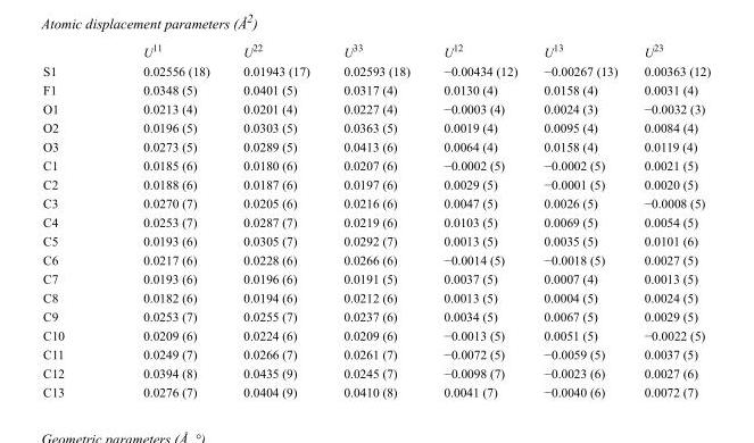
<table><thead><tr><td></td><td>U<sup>11</sup></td><td>U<sup>22</sup></td><td>U<sup>33</sup></td><td>U<sup>12</sup></td><td>U<sup>13</sup></td><td>U<sup>23</sup></td></tr></thead><tbody><tr><td>S1</td><td>0.02556 (18)</td><td>0.01943 (17)</td><td>0.02593 (18)</td><td>−0.00434 (12)</td><td>−0.00267 (13)</td><td>0.00363 (12)</td></tr><tr><td>F1</td><td>0.0348 (5)</td><td>0.0401 (5)</td><td>0.0317 (4)</td><td>0.0130 (4)</td><td>0.0158 (4)</td><td>0.0031 (4)</td></tr><tr><td>O1</td><td>0.0213 (4)</td><td>0.0201 (4)</td><td>0.0227 (4)</td><td>−0.0003 (4)</td><td>0.0024 (3)</td><td>−0.0032 (3)</td></tr><tr><td>O2</td><td>0.0196 (5)</td><td>0.0303 (5)</td><td>0.0363 (5)</td><td>0.0019 (4)</td><td>0.0095 (4)</td><td>0.0084 (4)</td></tr><tr><td>O3</td><td>0.0273 (5)</td><td>0.0289 (5)</td><td>0.0413 (6)</td><td>0.0064 (4)</td><td>0.0158 (4)</td><td>0.0119 (4)</td></tr><tr><td>C1</td><td>0.0185 (6)</td><td>0.0180 (6)</td><td>0.0207 (6)</td><td>−0.0002 (5)</td><td>−0.0002 (5)</td><td>0.0021 (5)</td></tr><tr><td>C2</td><td>0.0188 (6)</td><td>0.0187 (6)</td><td>0.0197 (6)</td><td>0.0029 (5)</td><td>−0.0001 (5)</td><td>0.0020 (5)</td></tr><tr><td>C3</td><td>0.0270 (7)</td><td>0.0205 (6)</td><td>0.0216 (6)</td><td>0.0047 (5)</td><td>0.0026 (5)</td><td>−0.0008 (5)</td></tr><tr><td>C4</td><td>0.0253 (7)</td><td>0.0287 (7)</td><td>0.0219 (6)</td><td>0.0103 (5)</td><td>0.0069 (5)</td><td>0.0054 (5)</td></tr><tr><td>C5</td><td>0.0193 (6)</td><td>0.0305 (7)</td><td>0.0292 (7)</td><td>0.0013 (5)</td><td>0.0035 (5)</td><td>0.0101 (6)</td></tr><tr><td>C6</td><td>0.0217 (6)</td><td>0.0228 (6)</td><td>0.0266 (6)</td><td>−0.0014 (5)</td><td>−0.0018 (5)</td><td>0.0027 (5)</td></tr><tr><td>C7</td><td>0.0193 (6)</td><td>0.0196 (6)</td><td>0.0191 (5)</td><td>0.0037 (5)</td><td>0.0007 (4)</td><td>0.0013 (5)</td></tr><tr><td>C8</td><td>0.0182 (6)</td><td>0.0194 (6)</td><td>0.0212 (6)</td><td>0.0013 (5)</td><td>0.0004 (5)</td><td>0.0024 (5)</td></tr><tr><td>C9</td><td>0.0253 (7)</td><td>0.0255 (7)</td><td>0.0237 (6)</td><td>0.0034 (5)</td><td>0.0067 (5)</td><td>0.0029 (5)</td></tr><tr><td>C10</td><td>0.0209 (6)</td><td>0.0224 (6)</td><td>0.0209 (6)</td><td>−0.0013 (5)</td><td>0.0051 (5)</td><td>−0.0022 (5)</td></tr><tr><td>C11</td><td>0.0249 (7)</td><td>0.0266 (7)</td><td>0.0261 (7)</td><td>−0.0072 (5)</td><td>−0.0059 (5)</td><td>0.0037 (5)</td></tr><tr><td>C12</td><td>0.0394 (8)</td><td>0.0435 (9)</td><td>0.0245 (7)</td><td>−0.0098 (7)</td><td>−0.0023 (6)</td><td>0.0027 (6)</td></tr><tr><td>C13</td><td>0.0276 (7)</td><td>0.0404 (9)</td><td>0.0410 (8)</td><td>0.0041 (7)</td><td>−0.0040 (6)</td><td>0.0072 (7)</td></tr></tbody></table>